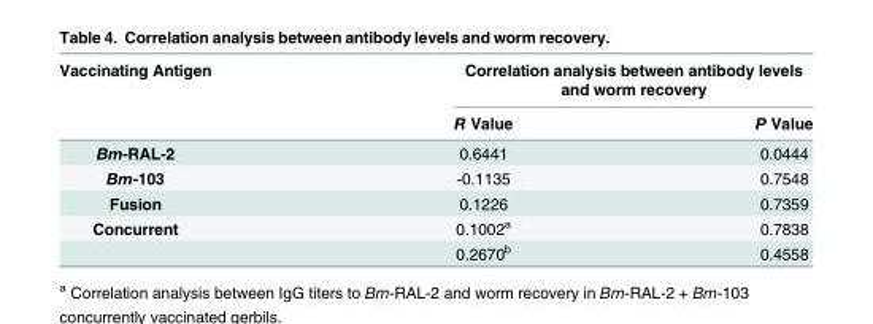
<table><thead><tr><td rowspan="2">Vaccinating Antigen</td><td colspan="2">Correlation analysis between antibody levels and worm recovery</td></tr><tr><td>R Value</td><td>P Value</td></tr></thead><tbody><tr><td>Bm-RAL-2</td><td>0.6441</td><td>0.0444</td></tr><tr><td>Bm-103</td><td>-0.1135</td><td>0.7548</td></tr><tr><td>Fusion</td><td>0.1226</td><td>0.7359</td></tr><tr><td rowspan="2">Concurrent</td><td>0.1002<sup>a</sup></td><td>0.7838</td></tr><tr><td>0.2670<sup>b</sup></td><td>0.4558</td></tr></tbody></table>